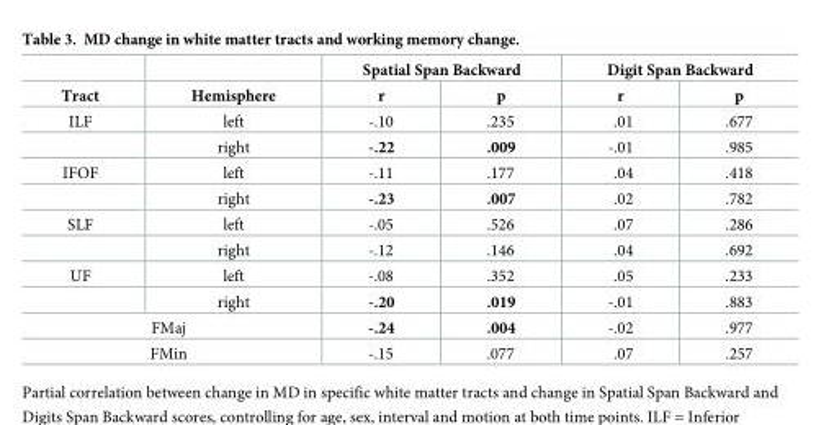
<table><thead><tr><td rowspan="2">Tract</td><td rowspan="2">Hemisphere</td><td colspan="2">Spatial Span Backward</td><td colspan="2">Digit Span Backward</td></tr><tr><td>r</td><td>p</td><td>r</td><td>p</td></tr></thead><tbody><tr><td rowspan="2">ILF</td><td>left</td><td>-.10</td><td>.235</td><td>.01</td><td>.677</td></tr><tr><td>right</td><td>-.22</td><td>.009</td><td>-.01</td><td>.985</td></tr><tr><td rowspan="2">IFOF</td><td>left</td><td>-.11</td><td>.177</td><td>.04</td><td>.418</td></tr><tr><td>right</td><td>-.23</td><td>.007</td><td>.02</td><td>.782</td></tr><tr><td rowspan="2">SLF</td><td>left</td><td>-.05</td><td>.526</td><td>.07</td><td>.286</td></tr><tr><td>right</td><td>-.12</td><td>.146</td><td>.04</td><td>.692</td></tr><tr><td rowspan="2">UF</td><td>left</td><td>-.08</td><td>.352</td><td>.05</td><td>.233</td></tr><tr><td>right</td><td>-.20</td><td>.019</td><td>-.01</td><td>.883</td></tr><tr><td colspan="2">FMaj</td><td>-.24</td><td>.004</td><td>-.02</td><td>.977</td></tr><tr><td colspan="2">FMin</td><td>-.15</td><td>.077</td><td>.07</td><td>.257</td></tr></tbody></table>